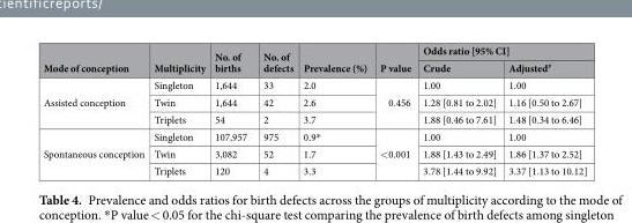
<table><thead><tr><td rowspan="2">Mode of conception</td><td rowspan="2">Multiplicity</td><td rowspan="2">No. of births</td><td rowspan="2">No. of defects</td><td rowspan="2">Prevalence (%)</td><td rowspan="2">P value</td><td colspan="2">Odds ratio [95% CI]</td></tr><tr><td>Crude</td><td>Adjusted<sup>#</sup></td></tr></thead><tbody><tr><td rowspan="3">Assisted conception</td><td>Singleton</td><td>1,644</td><td>33</td><td>2.0</td><td rowspan="3">0.456</td><td>1.00</td><td>1.00</td></tr><tr><td>Twin</td><td>1,644</td><td>42</td><td>2.6</td><td>1.28 [0.81 to 2.02]</td><td>1.16 [0.50 to 2.67]</td></tr><tr><td>Triplets</td><td>54</td><td>2</td><td>3.7</td><td>1.88 [0.46 to 7.61]</td><td>1.48 [0.34 to 6.46]</td></tr><tr><td rowspan="3">Spontaneous conception</td><td>Singleton</td><td>107,957</td><td>975</td><td>0.9*</td><td rowspan="3">&lt;0.001</td><td>1.00</td><td>1.00</td></tr><tr><td>Twin</td><td>3,082</td><td>52</td><td>1.7</td><td>1.88 [1.43 to 2.49]</td><td>1.86 [1.37 to 2.52]</td></tr><tr><td>Triplets</td><td>120</td><td>4</td><td>3.3</td><td>3.78 [1.44 to 9.92]</td><td>3.37 [1.13 to 10.12]</td></tr></tbody></table>